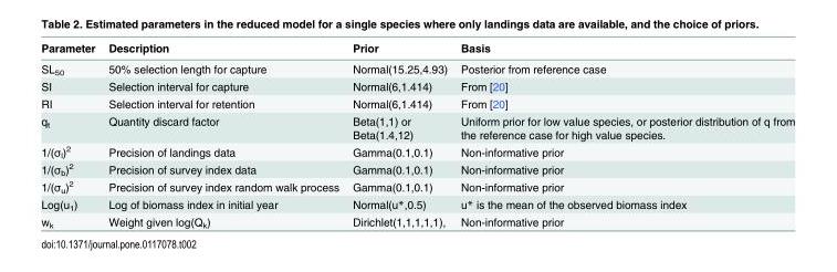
<table><thead><tr><td>Parameter</td><td>Description</td><td>Prior</td><td>Basis</td></tr></thead><tbody><tr><td>SL<sub>50</sub></td><td>50% selection length for capture</td><td>Normal(15.25,4.93)</td><td>Posterior from reference case</td></tr><tr><td>SI</td><td>Selection interval for capture</td><td>Normal(6,1.414)</td><td>From [20]</td></tr><tr><td>RI</td><td>Selection interval for retention</td><td>Normal(6,1.414)</td><td>From [20]</td></tr><tr><td>q<sub>t</sub></td><td>Quantity discard factor</td><td>Beta(1,1) or Beta(1.4,12)</td><td>Uniform prior for low value species, or posterior distribution of q from the reference case for high value species.</td></tr><tr><td>1/(σ<sub>l</sub>)<sup>2</sup></td><td>Precision of landings data</td><td>Gamma(0.1,0.1)</td><td>Non-informative prior</td></tr><tr><td>1/(σ<sub>b</sub>)<sup>2</sup></td><td>Precision of survey index data</td><td>Gamma(0.1,0.1)</td><td>Non-informative prior</td></tr><tr><td>1/(σ<sub>u</sub>)<sup>2</sup></td><td>Precision of survey index random walk process</td><td>Gamma(0.1,0.1)</td><td>Non-informative prior</td></tr><tr><td>Log(u<sub>1</sub>)</td><td>Log of biomass index in initial year</td><td>Normal(u*,0.5)</td><td>u* is the mean of the observed biomass index</td></tr><tr><td>w<sub>k</sub></td><td>Weight given log(Q<sub>k</sub>)</td><td>Dirichlet(1,1,1,1,1),</td><td>Non-informative prior</td></tr></tbody></table>